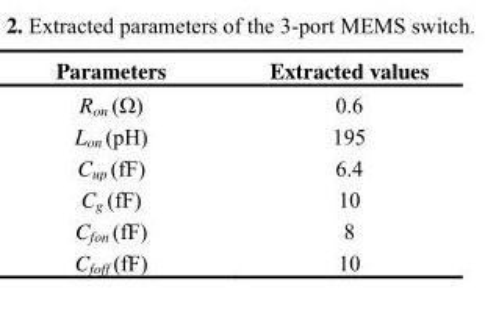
<table><thead><tr><td>Parameters</td><td>Extracted values</td></tr></thead><tbody><tr><td>R<sub>on</sub> (Ω)</td><td>0.6</td></tr><tr><td>L<sub>on</sub> (pH)</td><td>195</td></tr><tr><td>C<sub>up</sub> (fF)</td><td>6.4</td></tr><tr><td>C<sub>g</sub> (fF)</td><td>10</td></tr><tr><td>C<sub>fon</sub> (fF)</td><td>8</td></tr><tr><td>C<sub>foff</sub> (fF)</td><td>10</td></tr></tbody></table>